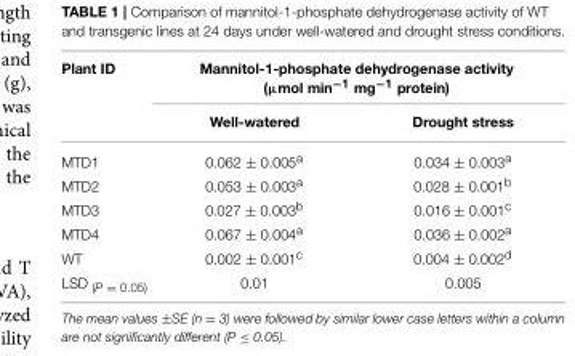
<table><thead><tr><td rowspan="2">Plant ID</td><td colspan="2">Mannitol-1-phosphate dehydrogenase activity (µmol min<sup>−1</sup> mg<sup>−1</sup> protein)</td></tr><tr><td>Well-watered</td><td>Drought stress</td></tr></thead><tbody><tr><td>MTD1</td><td>0.062 ± 0.005<sup>a</sup></td><td>0.034 ± 0.003<sup>a</sup></td></tr><tr><td>MTD2</td><td>0.053 ± 0.003<sup>a</sup></td><td>0.028 ± 0.001<sup>b</sup></td></tr><tr><td>MTD3</td><td>0.027 ± 0.003<sup>b</sup></td><td>0.016 ± 0.001<sup>c</sup></td></tr><tr><td>MTD4</td><td>0.067 ± 0.004<sup>a</sup></td><td>0.036 ± 0.002<sup>a</sup></td></tr><tr><td>WT</td><td>0.002 ± 0.001<sup>c</sup></td><td>0.004 ± 0.002<sup>d</sup></td></tr><tr><td>LSD <sub>(P = 0.05)</sub></td><td>0.01</td><td>0.005</td></tr></tbody></table>